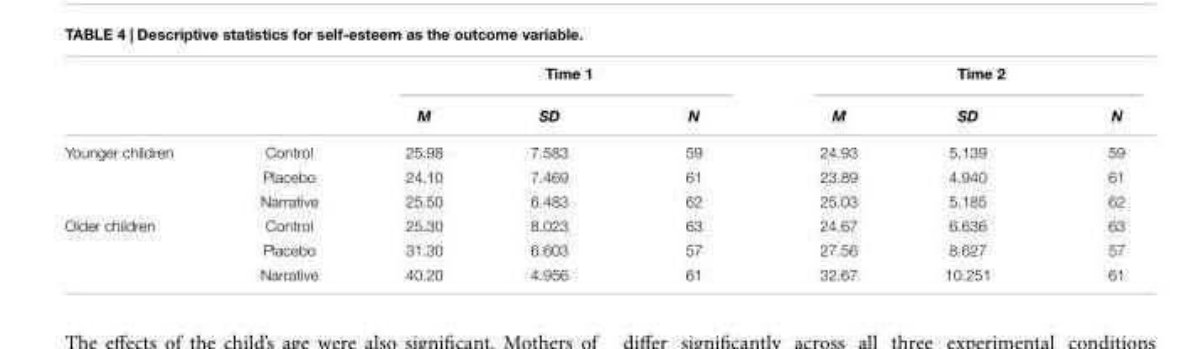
<table><thead><tr><td rowspan="2"></td><td rowspan="2"></td><td colspan="3">Time 1</td><td colspan="3">Time 2</td></tr><tr><td>M</td><td>SD</td><td>N</td><td>M</td><td>SD</td><td>N</td></tr></thead><tbody><tr><td rowspan="3">Younger children</td><td>Control</td><td>25.98</td><td>7.583</td><td>59</td><td>24.93</td><td>5.139</td><td>59</td></tr><tr><td>Placebo</td><td>24.10</td><td>7.469</td><td>61</td><td>23.89</td><td>4.940</td><td>61</td></tr><tr><td>Narrative</td><td>25.50</td><td>6.483</td><td>62</td><td>25.03</td><td>5.185</td><td>62</td></tr><tr><td rowspan="3">Older children</td><td>Control</td><td>25.30</td><td>8.023</td><td>63</td><td>24.67</td><td>6.636</td><td>63</td></tr><tr><td>Placebo</td><td>31.30</td><td>6.603</td><td>57</td><td>27.56</td><td>8.627</td><td>57</td></tr><tr><td>Narrative</td><td>40.20</td><td>4.956</td><td>61</td><td>32.67</td><td>10.251</td><td>61</td></tr></tbody></table>